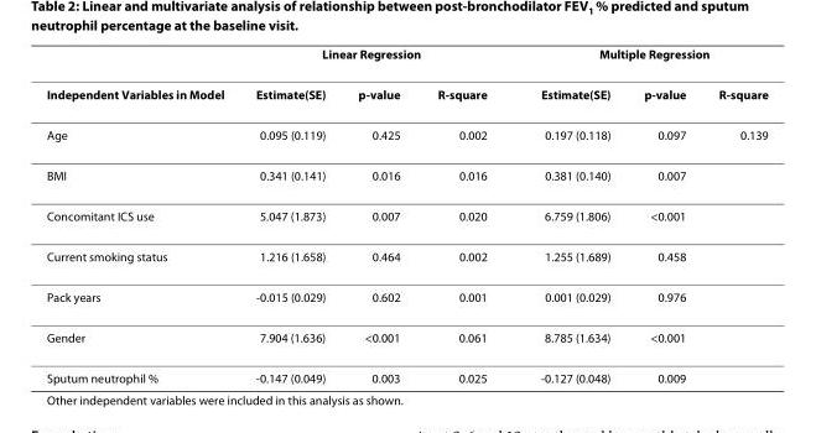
<table><thead><tr><td rowspan="2">Independent Variables in Model</td><td colspan="3">Linear Regression</td><td colspan="3">Multiple Regression</td></tr><tr><td>Estimate(SE)</td><td>p-value</td><td>R-square</td><td>Estimate(SE)</td><td>p-value</td><td>R-square</td></tr></thead><tbody><tr><td>Age</td><td>0.095 (0.119)</td><td>0.425</td><td>0.002</td><td>0.197 (0.118)</td><td>0.097</td><td>0.139</td></tr><tr><td>BMI</td><td>0.341 (0.141)</td><td>0.016</td><td>0.016</td><td>0.381 (0.140)</td><td>0.007</td><td></td></tr><tr><td>Concomitant ICS use</td><td>5.047 (1.873)</td><td>0.007</td><td>0.020</td><td>6.759 (1.806)</td><td>&lt;0.001</td><td></td></tr><tr><td>Current smoking status</td><td>1.216 (1.658)</td><td>0.464</td><td>0.002</td><td>1.255 (1.689)</td><td>0.458</td><td></td></tr><tr><td>Pack years</td><td>-0.015 (0.029)</td><td>0.602</td><td>0.001</td><td>0.001 (0.029)</td><td>0.976</td><td></td></tr><tr><td>Gender</td><td>7.904 (1.636)</td><td>&lt;0.001</td><td>0.061</td><td>8.785 (1.634)</td><td>&lt;0.001</td><td></td></tr><tr><td>Sputum neutrophil %</td><td>-0.147 (0.049)</td><td>0.003</td><td>0.025</td><td>-0.127 (0.048)</td><td>0.009</td><td></td></tr></tbody></table>